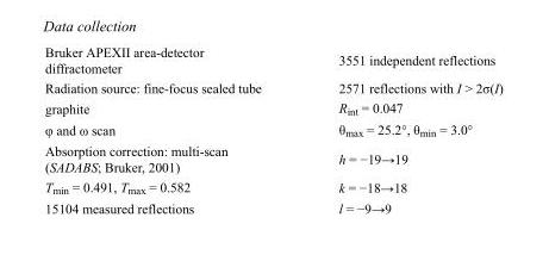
<table><tbody><tr><td>Bruker APEXII area-detector diffractometer</td><td>3551 independent reflections</td></tr><tr><td>Radiation source: fine-focus sealed tube</td><td>2571 reflections with I &gt; 2σ(I)</td></tr><tr><td>graphite</td><td>R<sub>int</sub> = 0.047</td></tr><tr><td>φ and ω scan</td><td>θ<sub>max</sub> = 25.2°, θ<sub>min</sub> = 3.0°</td></tr><tr><td>Absorption correction: multi-scan (SADABS; Bruker, 2001)</td><td>h = −19→19</td></tr><tr><td>T<sub>min</sub> = 0.491, T<sub>max</sub> = 0.582</td><td>k = −18→18</td></tr><tr><td>15104 measured reflections</td><td>l = −9→9</td></tr></tbody></table>